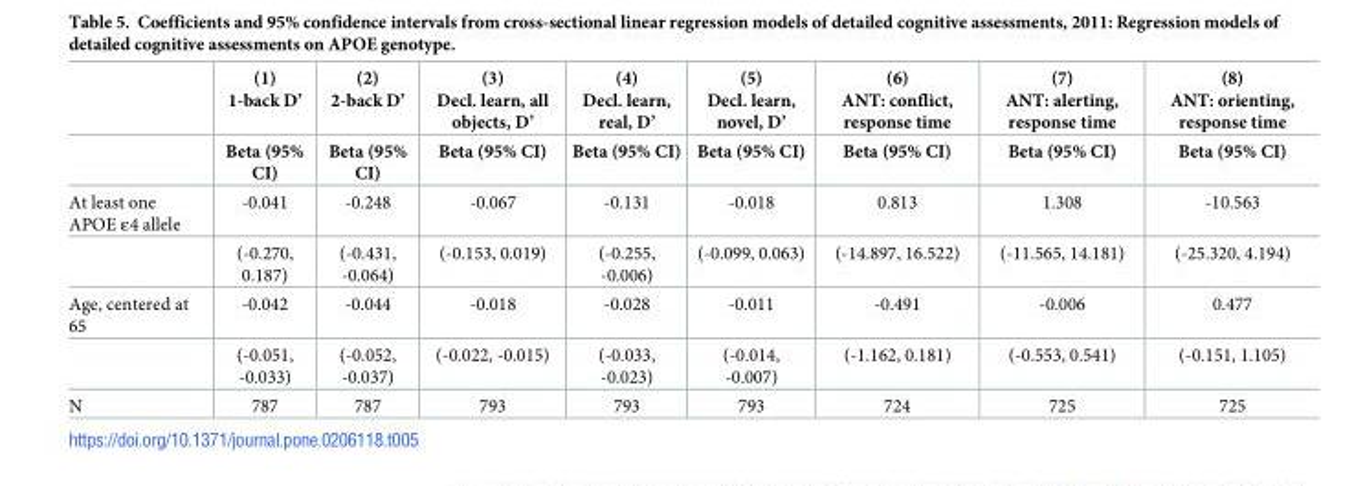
<table><thead><tr><td rowspan="2"></td><td rowspan="2">(1) 1-back D’ Beta (95% CI)</td><td rowspan="2">(2) 2-back D’ Beta (95% CI)</td><td rowspan="2">(3) Decl. learn, all objects, D’ Beta (95% CI)</td><td rowspan="2">(4) Decl. learn, real, D’ Beta (95% CI)</td><td rowspan="2">(5) Decl. learn, novel, D’ Beta (95% CI)</td><td rowspan="2">(6) ANT: conflict, response time Beta (95% CI)</td><td rowspan="2">(7) ANT: alerting, response time Beta (95% CI)</td><td rowspan="2">(8) ANT: orienting, response time Beta (95% CI)</td></tr><tr></tr></thead><tbody><tr><td rowspan="2">At least one APOE ε4 allele</td><td>-0.041</td><td>-0.248</td><td>-0.067</td><td>-0.131</td><td>-0.018</td><td>0.813</td><td>1.308</td><td>-10.563</td></tr><tr><td>(-0.270, 0.187)</td><td>(-0.431, -0.064)</td><td>(-0.153, 0.019)</td><td>(-0.255, -0.006)</td><td>(-0.099, 0.063)</td><td>(-14.897, 16.522)</td><td>(-11.565, 14.181)</td><td>(-25.320, 4.194)</td></tr><tr><td rowspan="2">Age, centered at 65</td><td>-0.042</td><td>-0.044</td><td>-0.018</td><td>-0.028</td><td>-0.011</td><td>-0.491</td><td>-0.006</td><td>0.477</td></tr><tr><td>(-0.051, -0.033)</td><td>(-0.052, -0.037)</td><td>(-0.022, -0.015)</td><td>(-0.033, -0.023)</td><td>(-0.014, -0.007)</td><td>(-1.162, 0.181)</td><td>(-0.553, 0.541)</td><td>(-0.151, 1.105)</td></tr><tr><td>N</td><td>787</td><td>787</td><td>793</td><td>793</td><td>793</td><td>724</td><td>725</td><td>725</td></tr></tbody></table>